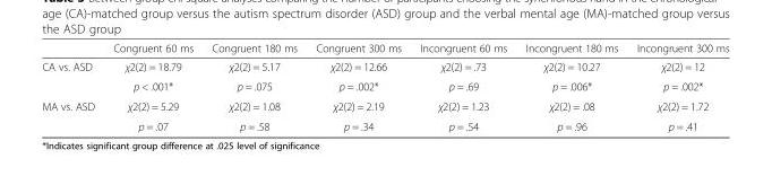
<table><thead><tr><td></td><td>Congruent 60 ms</td><td>Congruent 180 ms</td><td>Congruent 300 ms</td><td>Incongruent 60 ms</td><td>Incongruent 180 ms</td><td>Incongruent 300 ms</td></tr></thead><tbody><tr><td rowspan="2">CA vs. ASD</td><td>χ2(2) = 18.79</td><td>χ2(2) = 5.17</td><td>χ2(2) = 12.66</td><td>χ2(2) = .73</td><td>χ2(2) = 10.27</td><td>χ2(2) = 12</td></tr><tr><td>p &lt; .001*</td><td>p = .075</td><td>p = .002*</td><td>p = .69</td><td>p = .006*</td><td>p = .002*</td></tr><tr><td rowspan="2">MA vs. ASD</td><td>χ2(2) = 5.29</td><td>χ2(2) = 1.08</td><td>χ2(2) = 2.19</td><td>χ2(2) = 1.23</td><td>χ2(2) = .08</td><td>χ2(2) = 1.72</td></tr><tr><td>p = .07</td><td>p = .58</td><td>p = .34</td><td>p = .54</td><td>p = .96</td><td>p = .41</td></tr></tbody></table>